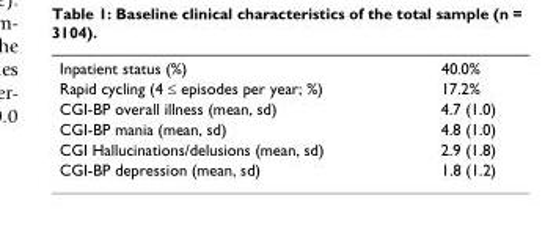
<table><tbody><tr><td>Inpatient status (%)</td><td>40.0%</td></tr><tr><td>Rapid cycling (4 ≤ episodes per year; %)</td><td>17.2%</td></tr><tr><td>CGI-BP overall illness (mean, sd)</td><td>4.7 (1.0)</td></tr><tr><td>CGI-BP mania (mean, sd)</td><td>4.8 (1.0)</td></tr><tr><td>CGI Hallucinations/delusions (mean, sd)</td><td>2.9 (1.8)</td></tr><tr><td>CGI-BP depression (mean, sd)</td><td>1.8 (1.2)</td></tr></tbody></table>